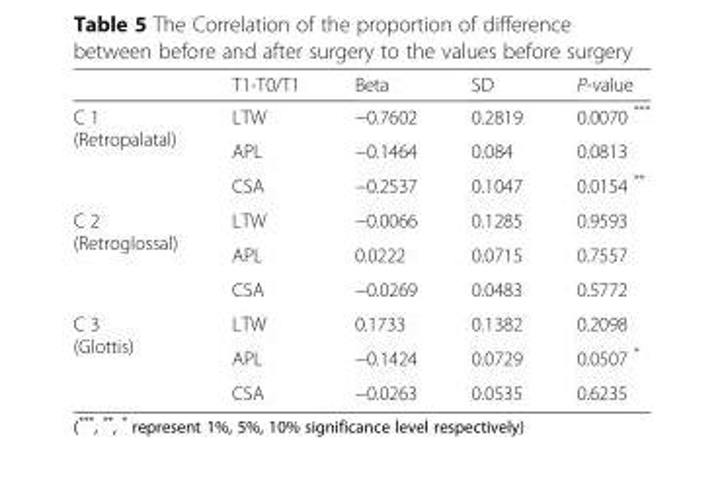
<table><thead><tr><td></td><td>T1-T0/T1</td><td>Beta</td><td>SD</td><td>P-value</td></tr></thead><tbody><tr><td rowspan="3">C 1 (Retropalatal)</td><td>LTW</td><td>−0.7602</td><td>0.2819</td><td>0.0070 ***</td></tr><tr><td>APL</td><td>−0.1464</td><td>0.084</td><td>0.0813</td></tr><tr><td>CSA</td><td>−0.2537</td><td>0.1047</td><td>0.0154 **</td></tr><tr><td rowspan="3">C 2 (Retroglossal)</td><td>LTW</td><td>−0.0066</td><td>0.1285</td><td>0.9593</td></tr><tr><td>APL</td><td>0.0222</td><td>0.0715</td><td>0.7557</td></tr><tr><td>CSA</td><td>−0.0269</td><td>0.0483</td><td>0.5772</td></tr><tr><td rowspan="3">C 3 (Glottis)</td><td>LTW</td><td>0.1733</td><td>0.1382</td><td>0.2098</td></tr><tr><td>APL</td><td>−0.1424</td><td>0.0729</td><td>0.0507 *</td></tr><tr><td>CSA</td><td>−0.0263</td><td>0.0535</td><td>0.6235</td></tr></tbody></table>